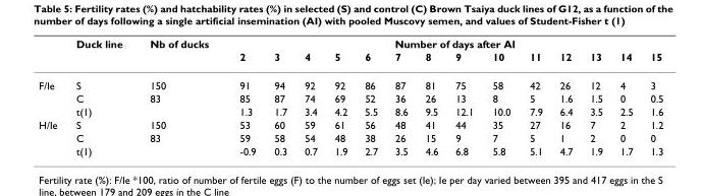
<table><thead><tr><td rowspan="2"></td><td rowspan="2">Duck line</td><td rowspan="2">Nb of ducks</td><td colspan="14">Number of days after AI</td></tr><tr><td>2</td><td>3</td><td>4</td><td>5</td><td>6</td><td>7</td><td>8</td><td>9</td><td>10</td><td>11</td><td>12</td><td>13</td><td>14</td><td>15</td></tr></thead><tbody><tr><td rowspan="3">F/Ie</td><td>S</td><td>150</td><td>91</td><td>94</td><td>92</td><td>92</td><td>86</td><td>87</td><td>81</td><td>75</td><td>58</td><td>42</td><td>26</td><td>12</td><td>4</td><td>3</td></tr><tr><td>C</td><td>83</td><td>85</td><td>87</td><td>74</td><td>69</td><td>52</td><td>36</td><td>26</td><td>13</td><td>8</td><td>5</td><td>1.6</td><td>1.5</td><td>0</td><td>0.5</td></tr><tr><td>t(1)</td><td></td><td>1.3</td><td>1.7</td><td>3.4</td><td>4.2</td><td>5.5</td><td>8.6</td><td>9.5</td><td>12.1</td><td>10.0</td><td>7.9</td><td>6.4</td><td>3.5</td><td>2.5</td><td>1.6</td></tr><tr><td rowspan="3">H/Ie</td><td>S</td><td>150</td><td>53</td><td>60</td><td>59</td><td>61</td><td>56</td><td>48</td><td>41</td><td>44</td><td>35</td><td>27</td><td>16</td><td>7</td><td>2</td><td>1.2</td></tr><tr><td>C</td><td>83</td><td>59</td><td>58</td><td>54</td><td>48</td><td>38</td><td>26</td><td>15</td><td>9</td><td>7</td><td>5</td><td>1</td><td>2</td><td>0</td><td>0</td></tr><tr><td>t(1)</td><td></td><td>-0.9</td><td>0.3</td><td>0.7</td><td>1.9</td><td>2.7</td><td>3.5</td><td>4.6</td><td>6.8</td><td>5.8</td><td>5.1</td><td>4.7</td><td>1.9</td><td>1.7</td><td>1.3</td></tr></tbody></table>